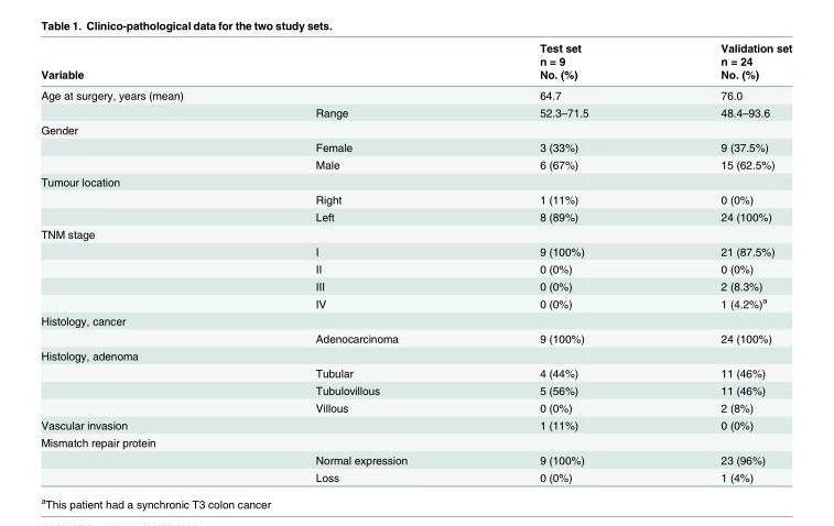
<table><thead><tr><td rowspan="2"></td><td rowspan="2"></td><td rowspan="3">Test set n = 9 No. (%)</td><td rowspan="3">Validation set n = 24 No. (%)</td></tr><tr></tr><tr><td colspan="2">Variable</td></tr></thead><tbody><tr><td rowspan="2">Age at surgery, years (mean)</td><td></td><td>64.7</td><td>76.0</td></tr><tr><td>Range</td><td>52.3–71.5</td><td>48.4–93.6</td></tr><tr><td colspan="4">Gender</td></tr><tr><td></td><td>Female</td><td>3 (33%)</td><td>9 (37.5%)</td></tr><tr><td></td><td>Male</td><td>6 (67%)</td><td>15 (62.5%)</td></tr><tr><td colspan="4">Tumour location</td></tr><tr><td></td><td>Right</td><td>1 (11%)</td><td>0 (0%)</td></tr><tr><td></td><td>Left</td><td>8 (89%)</td><td>24 (100%)</td></tr><tr><td colspan="4">TNM stage</td></tr><tr><td></td><td>I</td><td>9 (100%)</td><td>21 (87.5%)</td></tr><tr><td></td><td>II</td><td>0 (0%)</td><td>0 (0%)</td></tr><tr><td></td><td>III</td><td>0 (0%)</td><td>2 (8.3%)</td></tr><tr><td></td><td>IV</td><td>0 (0%)</td><td>1 (4.2%)<sup>a</sup></td></tr><tr><td colspan="4">Histology, cancer</td></tr><tr><td></td><td>Adenocarcinoma</td><td>9 (100%)</td><td>24 (100%)</td></tr><tr><td colspan="4">Histology, adenoma</td></tr><tr><td></td><td>Tubular</td><td>4 (44%)</td><td>11 (46%)</td></tr><tr><td></td><td>Tubulovillous</td><td>5 (56%)</td><td>11 (46%)</td></tr><tr><td></td><td>Villous</td><td>0 (0%)</td><td>2 (8%)</td></tr><tr><td>Vascular invasion</td><td></td><td>1 (11%)</td><td>0 (0%)</td></tr><tr><td colspan="4">Mismatch repair protein</td></tr><tr><td></td><td>Normal expression</td><td>9 (100%)</td><td>23 (96%)</td></tr><tr><td></td><td>Loss</td><td>0 (0%)</td><td>1 (4%)</td></tr></tbody></table>